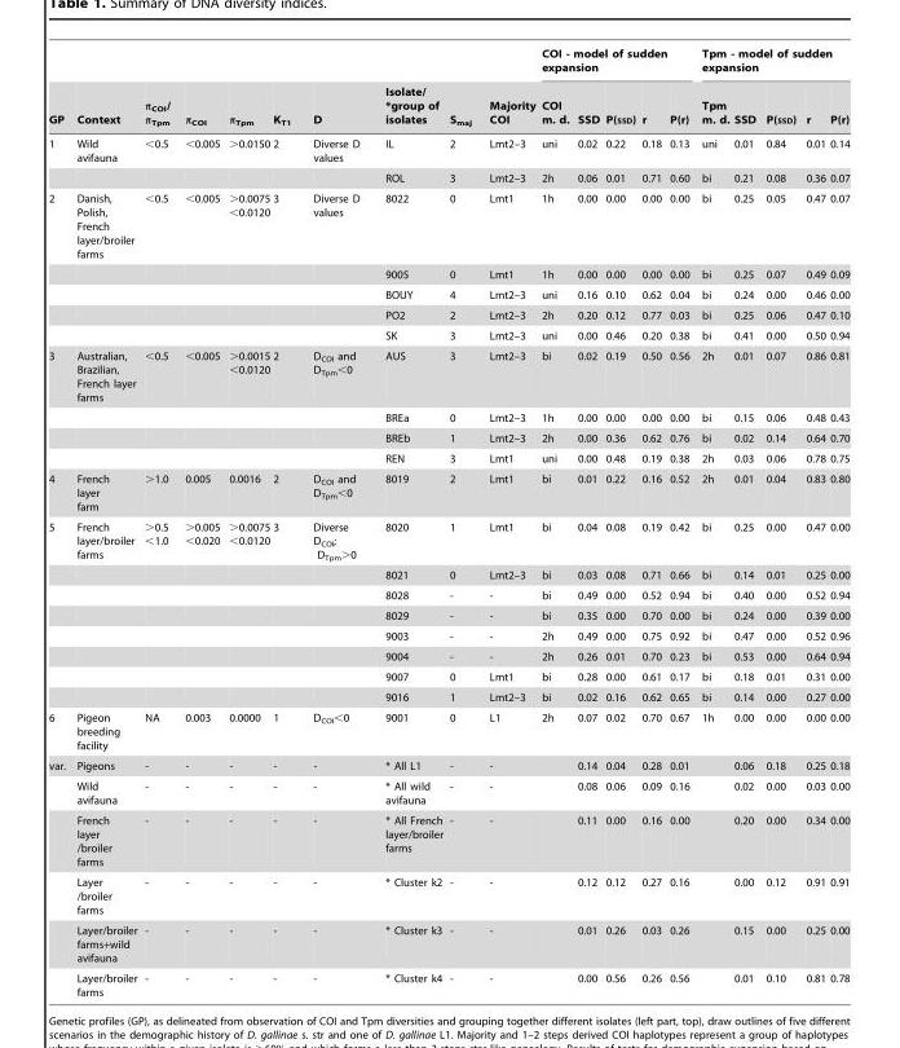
<table><thead><tr><td rowspan="2">GP</td><td rowspan="2">Context</td><td rowspan="2">π<sub>COI</sub>/ π<sub>Tpm</sub></td><td rowspan="2">π<sub>COI</sub></td><td rowspan="2">π<sub>Tpm</sub></td><td rowspan="2">K<sub>T1</sub></td><td rowspan="2">D</td><td rowspan="2">Isolate/ *group of isolates</td><td rowspan="2">S<sub>maj</sub></td><td rowspan="2">Majority COI</td><td colspan="5">COI - model of sudden expansion</td><td colspan="5">Tpm - model of sudden expansion</td></tr><tr><td>COI m. d.</td><td>SSD</td><td>P(SSD)</td><td>r</td><td>P(r)</td><td>Tpm m. d.</td><td>SSD</td><td>P(SSD)</td><td>r</td><td>P(r)</td></tr></thead><tbody><tr><td rowspan="2">1</td><td>Wild avifauna</td><td>&lt;0.5</td><td>&lt;0.005</td><td>&gt;0.0150</td><td>2</td><td>Diverse D values</td><td>IL</td><td>2</td><td>Lmt2–3</td><td>uni</td><td>0.02</td><td>0.22</td><td>0.18</td><td>0.13</td><td>uni</td><td>0.01</td><td>0.84</td><td>0.01</td><td>0.14</td></tr><tr><td></td><td></td><td></td><td></td><td></td><td></td><td>ROL</td><td>3</td><td>Lmt2–3</td><td>2h</td><td>0.06</td><td>0.01</td><td>0.71</td><td>0.60</td><td>bi</td><td>0.21</td><td>0.08</td><td>0.36</td><td>0.07</td></tr><tr><td rowspan="5">2</td><td>Danish, Polish, French layer/broiler farms</td><td>&lt;0.5</td><td>&lt;0.005</td><td>&gt;0.0075 &lt;0.0120</td><td>3</td><td>Diverse D values</td><td>8022</td><td>0</td><td>Lmt1</td><td>1h</td><td>0.00</td><td>0.00</td><td>0.00</td><td>0.00</td><td>bi</td><td>0.25</td><td>0.05</td><td>0.47</td><td>0.07</td></tr><tr><td></td><td></td><td></td><td></td><td></td><td></td><td>9005</td><td>0</td><td>Lmt1</td><td>1h</td><td>0.00</td><td>0.00</td><td>0.00</td><td>0.00</td><td>bi</td><td>0.25</td><td>0.07</td><td>0.49</td><td>0.09</td></tr><tr><td></td><td></td><td></td><td></td><td></td><td></td><td>BOUY</td><td>4</td><td>Lmt2–3</td><td>uni</td><td>0.16</td><td>0.10</td><td>0.62</td><td>0.04</td><td>bi</td><td>0.24</td><td>0.00</td><td>0.46</td><td>0.00</td></tr><tr><td></td><td></td><td></td><td></td><td></td><td></td><td>PO2</td><td>2</td><td>Lmt2–3</td><td>2h</td><td>0.20</td><td>0.12</td><td>0.77</td><td>0.03</td><td>bi</td><td>0.25</td><td>0.06</td><td>0.47</td><td>0.10</td></tr><tr><td></td><td></td><td></td><td></td><td></td><td></td><td>SK</td><td>3</td><td>Lmt2–3</td><td>uni</td><td>0.00</td><td>0.46</td><td>0.20</td><td>0.38</td><td>bi</td><td>0.41</td><td>0.00</td><td>0.50</td><td>0.94</td></tr><tr><td rowspan="4">3</td><td>Australian, Brazilian, French layer farms</td><td>&lt;0.5</td><td>&lt;0.005</td><td>&gt;0.0015 &lt;0.0120</td><td>2</td><td>D<sub>COI</sub> and D<sub>Tpm</sub>&lt;0</td><td>AUS</td><td>3</td><td>Lmt2–3</td><td>bi</td><td>0.02</td><td>0.19</td><td>0.50</td><td>0.56</td><td>2h</td><td>0.01</td><td>0.07</td><td>0.86</td><td>0.81</td></tr><tr><td></td><td></td><td></td><td></td><td></td><td></td><td>BREa</td><td>0</td><td>Lmt2–3</td><td>1h</td><td>0.00</td><td>0.00</td><td>0.00</td><td>0.00</td><td>bi</td><td>0.15</td><td>0.06</td><td>0.48</td><td>0.43</td></tr><tr><td></td><td></td><td></td><td></td><td></td><td></td><td>BREb</td><td>1</td><td>Lmt2–3</td><td>2h</td><td>0.00</td><td>0.36</td><td>0.62</td><td>0.76</td><td>bi</td><td>0.02</td><td>0.14</td><td>0.64</td><td>0.70</td></tr><tr><td></td><td></td><td></td><td></td><td></td><td></td><td>REN</td><td>3</td><td>Lmt1</td><td>uni</td><td>0.00</td><td>0.48</td><td>0.19</td><td>0.38</td><td>2h</td><td>0.03</td><td>0.06</td><td>0.78</td><td>0.75</td></tr><tr><td>4</td><td>French layer farm</td><td>&gt;1.0</td><td>0.005</td><td>0.0016</td><td>2</td><td>D<sub>COI</sub> and D<sub>Tpm</sub>&lt;0</td><td>8019</td><td>2</td><td>Lmt1</td><td>bi</td><td>0.01</td><td>0.22</td><td>0.16</td><td>0.52</td><td>2h</td><td>0.01</td><td>0.04</td><td>0.83</td><td>0.80</td></tr><tr><td rowspan="8">5</td><td>French layer/broiler farms</td><td>&gt;0.5 &lt;1.0</td><td>&gt;0.005 &lt;0.020</td><td>&gt;0.0075 &lt;0.0120</td><td>3</td><td>Diverse D<sub>COI</sub>; D<sub>Tpm</sub>&gt;0</td><td>8020</td><td>1</td><td>Lmt1</td><td>bi</td><td>0.04</td><td>0.08</td><td>0.19</td><td>0.42</td><td>bi</td><td>0.25</td><td>0.00</td><td>0.47</td><td>0.00</td></tr><tr><td></td><td></td><td></td><td></td><td></td><td></td><td>8021</td><td>0</td><td>Lmt2–3</td><td>bi</td><td>0.03</td><td>0.08</td><td>0.71</td><td>0.66</td><td>bi</td><td>0.14</td><td>0.01</td><td>0.25</td><td>0.00</td></tr><tr><td></td><td></td><td></td><td></td><td></td><td></td><td>8028</td><td>-</td><td>-</td><td>bi</td><td>0.49</td><td>0.00</td><td>0.52</td><td>0.94</td><td>bi</td><td>0.40</td><td>0.00</td><td>0.52</td><td>0.94</td></tr><tr><td></td><td></td><td></td><td></td><td></td><td></td><td>8029</td><td>-</td><td>-</td><td>bi</td><td>0.35</td><td>0.00</td><td>0.70</td><td>0.00</td><td>bi</td><td>0.24</td><td>0.00</td><td>0.39</td><td>0.00</td></tr><tr><td></td><td></td><td></td><td></td><td></td><td></td><td>9003</td><td>-</td><td>-</td><td>2h</td><td>0.49</td><td>0.00</td><td>0.75</td><td>0.92</td><td>bi</td><td>0.47</td><td>0.00</td><td>0.52</td><td>0.96</td></tr><tr><td></td><td></td><td></td><td></td><td></td><td></td><td>9004</td><td>-</td><td>-</td><td>2h</td><td>0.26</td><td>0.01</td><td>0.70</td><td>0.23</td><td>bi</td><td>0.53</td><td>0.00</td><td>0.64</td><td>0.94</td></tr><tr><td></td><td></td><td></td><td></td><td></td><td></td><td>9007</td><td>0</td><td>Lmt1</td><td>bi</td><td>0.28</td><td>0.00</td><td>0.61</td><td>0.17</td><td>bi</td><td>0.18</td><td>0.01</td><td>0.31</td><td>0.00</td></tr><tr><td></td><td></td><td></td><td></td><td></td><td></td><td>9016</td><td>1</td><td>Lmt2–3</td><td>bi</td><td>0.02</td><td>0.16</td><td>0.62</td><td>0.65</td><td>bi</td><td>0.14</td><td>0.00</td><td>0.27</td><td>0.00</td></tr><tr><td>6</td><td>Pigeon breeding facility</td><td>NA</td><td>0.003</td><td>0.0000</td><td>1</td><td>D<sub>COI</sub>&lt;0</td><td>9001</td><td>0</td><td>L1</td><td>2h</td><td>0.07</td><td>0.02</td><td>0.70</td><td>0.67</td><td>1h</td><td>0.00</td><td>0.00</td><td>0.00</td><td>0.00</td></tr><tr><td rowspan="6">var.</td><td>Pigeons</td><td>-</td><td>-</td><td>-</td><td>-</td><td>-</td><td>* All L1</td><td>-</td><td>-</td><td></td><td>0.14</td><td>0.04</td><td>0.28</td><td>0.01</td><td></td><td>0.06</td><td>0.18</td><td>0.25</td><td>0.18</td></tr><tr><td>Wild avifauna</td><td>-</td><td>-</td><td>-</td><td>-</td><td>-</td><td>* All wild avifauna</td><td>-</td><td>-</td><td></td><td>0.08</td><td>0.06</td><td>0.09</td><td>0.16</td><td></td><td>0.02</td><td>0.00</td><td>0.03</td><td>0.00</td></tr><tr><td>French layer /broiler farms</td><td>-</td><td>-</td><td>-</td><td>-</td><td>-</td><td>* All French layer/broiler farms</td><td>-</td><td>-</td><td></td><td>0.11</td><td>0.00</td><td>0.16</td><td>0.00</td><td></td><td>0.20</td><td>0.00</td><td>0.34</td><td>0.00</td></tr><tr><td>Layer /broiler farms</td><td>-</td><td>-</td><td>-</td><td>-</td><td>-</td><td>* Cluster k2</td><td>-</td><td>-</td><td></td><td>0.12</td><td>0.12</td><td>0.27</td><td>0.16</td><td></td><td>0.00</td><td>0.12</td><td>0.91</td><td>0.91</td></tr><tr><td>Layer/broiler farms+wild avifauna</td><td>-</td><td>-</td><td>-</td><td>-</td><td>-</td><td>* Cluster k3</td><td>-</td><td>-</td><td></td><td>0.01</td><td>0.26</td><td>0.03</td><td>0.26</td><td></td><td>0.15</td><td>0.00</td><td>0.25</td><td>0.00</td></tr><tr><td>Layer/broiler farms</td><td>-</td><td>-</td><td>-</td><td>-</td><td>-</td><td>* Cluster k4</td><td>-</td><td>-</td><td></td><td>0.00</td><td>0.56</td><td>0.26</td><td>0.56</td><td></td><td>0.01</td><td>0.10</td><td>0.81</td><td>0.78</td></tr></tbody></table>